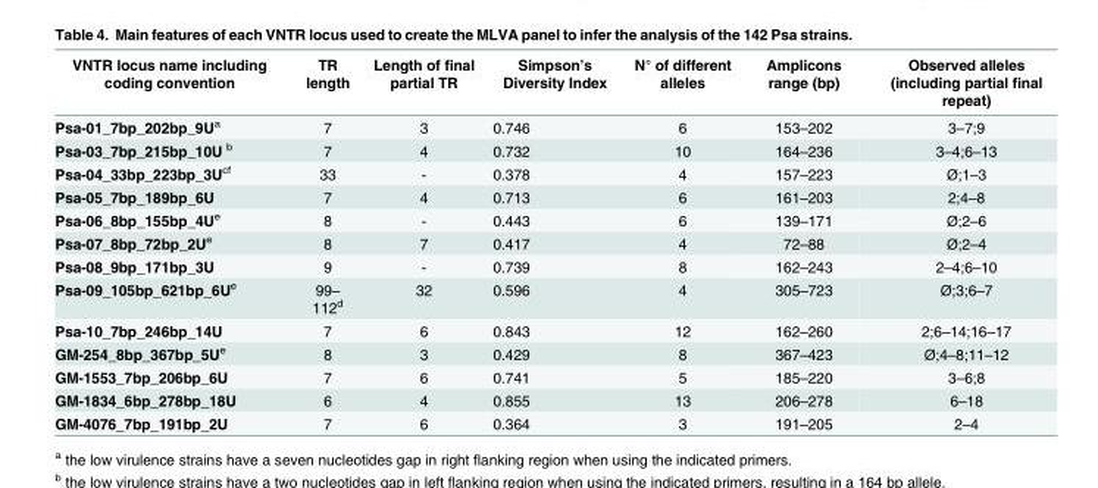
<table><thead><tr><td>VNTR locus name including coding convention</td><td>TR length</td><td>Length of final partial TR</td><td>Simpson’s Diversity Index</td><td>N° of different alleles</td><td>Amplicons range (bp)</td><td>Observed alleles (including partial final repeat)</td></tr></thead><tbody><tr><td>Psa-01_7bp_202bp_9U<sup>a</sup></td><td>7</td><td>3</td><td>0.746</td><td>6</td><td>153–202</td><td>3–7;9</td></tr><tr><td>Psa-03_7bp_215bp_10U <sup>b</sup></td><td>7</td><td>4</td><td>0.732</td><td>10</td><td>164–236</td><td>3–4;6–13</td></tr><tr><td>Psa-04_33bp_223bp_3U<sup>cf</sup></td><td>33</td><td>-</td><td>0.378</td><td>4</td><td>157–223</td><td>Ø;1–3</td></tr><tr><td>Psa-05_7bp_189bp_6U</td><td>7</td><td>4</td><td>0.713</td><td>6</td><td>161–203</td><td>2;4–8</td></tr><tr><td>Psa-06_8bp_155bp_4U<sup>e</sup></td><td>8</td><td>-</td><td>0.443</td><td>6</td><td>139–171</td><td>Ø;2–6</td></tr><tr><td>Psa-07_8bp_72bp_2U<sup>e</sup></td><td>8</td><td>7</td><td>0.417</td><td>4</td><td>72–88</td><td>Ø;2–4</td></tr><tr><td>Psa-08_9bp_171bp_3U</td><td>9</td><td>-</td><td>0.739</td><td>8</td><td>162–243</td><td>2–4;6–10</td></tr><tr><td>Psa-09_105bp_621bp_6U<sup>e</sup></td><td>99– 112<sup>d</sup></td><td>32</td><td>0.596</td><td>4</td><td>305–723</td><td>Ø;3;6–7</td></tr><tr><td>Psa-10_7bp_246bp_14U</td><td>7</td><td>6</td><td>0.843</td><td>12</td><td>162–260</td><td>2;6–14;16–17</td></tr><tr><td>GM-254_8bp_367bp_5U<sup>e</sup></td><td>8</td><td>3</td><td>0.429</td><td>8</td><td>367–423</td><td>Ø;4–8;11–12</td></tr><tr><td>GM-1553_7bp_206bp_6U</td><td>7</td><td>6</td><td>0.741</td><td>5</td><td>185–220</td><td>3–6;8</td></tr><tr><td>GM-1834_6bp_278bp_18U</td><td>6</td><td>4</td><td>0.855</td><td>13</td><td>206–278</td><td>6–18</td></tr><tr><td>GM-4076_7bp_191bp_2U</td><td>7</td><td>6</td><td>0.364</td><td>3</td><td>191–205</td><td>2–4</td></tr></tbody></table>